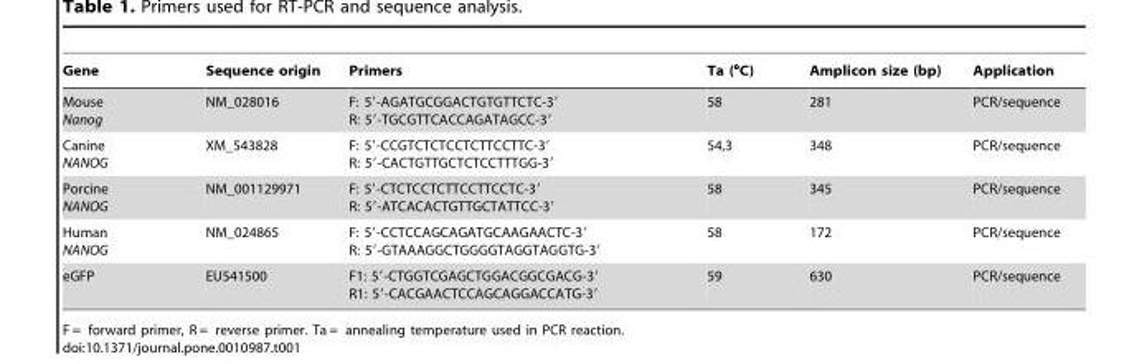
<table><thead><tr><td>Gene</td><td>Sequence origin</td><td>Primers</td><td>Ta (°C)</td><td>Amplicon size (bp)</td><td>Application</td></tr></thead><tbody><tr><td>Mouse Nanog</td><td>NM_028016</td><td>F: 5′-AGATGCGGACTGTGTTCTC-3′ R: 5′-TGCGTTCACCAGATAGCC-3′</td><td>58</td><td>281</td><td>PCR/sequence</td></tr><tr><td>Canine NANOG</td><td>XM_543828</td><td>F: 5′-CCGTCTCTCCTCTTCCTTC-3′ R: 5′-CACTGTTGCTCTCCTTTGG-3′</td><td>54,3</td><td>348</td><td>PCR/sequence</td></tr><tr><td>Porcine NANOG</td><td>NM_001129971</td><td>F: 5′-CTCTCCTCTTCCTTCCTC-3′ R: 5′-ATCACACTGTTGCTATTCC-3′</td><td>58</td><td>345</td><td>PCR/sequence</td></tr><tr><td>Human NANOG</td><td>NM_024865</td><td>F: 5′-CCTCCAGCAGATGCAAGAACTC-3′ R: 5′-GTAAAGGCTGGGGTAGGTAGGTG-3′</td><td>58</td><td>172</td><td>PCR/sequence</td></tr><tr><td>eGFP</td><td>EU541500</td><td>F1: 5′-CTGGTCGAGCTGGACGGCGACG-3′ R1: 5′-CACGAACTCCAGCAGGACCATG-3′</td><td>59</td><td>630</td><td>PCR/sequence</td></tr></tbody></table>